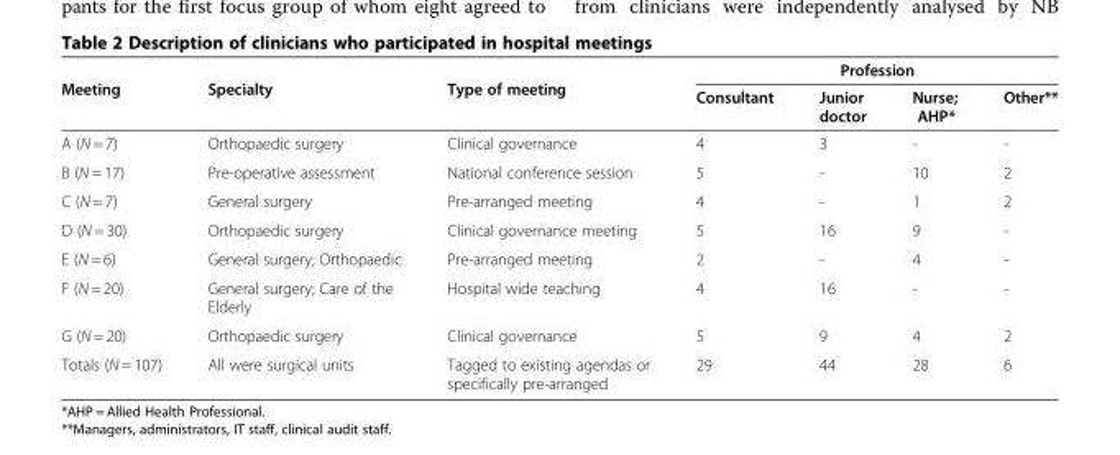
<table><thead><tr><td rowspan="2">Meeting</td><td rowspan="2">Specialty</td><td rowspan="2">Type of meeting</td><td colspan="4">Profession</td></tr><tr><td>Consultant</td><td>Junior doctor</td><td>Nurse; AHP*</td><td>Other**</td></tr></thead><tbody><tr><td>A (N = 7)</td><td>Orthopaedic surgery</td><td>Clinical governance</td><td>4</td><td>3</td><td>-</td><td>-</td></tr><tr><td>B (N = 17)</td><td>Pre-operative assessment</td><td>National conference session</td><td>5</td><td>-</td><td>10</td><td>2</td></tr><tr><td>C (N = 7)</td><td>General surgery</td><td>Pre-arranged meeting</td><td>4</td><td>-</td><td>1</td><td>2</td></tr><tr><td>D (N = 30)</td><td>Orthopaedic surgery</td><td>Clinical governance meeting</td><td>5</td><td>16</td><td>9</td><td>-</td></tr><tr><td>E (N = 6)</td><td>General surgery; Orthopaedic</td><td>Pre-arranged meeting</td><td>2</td><td>-</td><td>4</td><td>-</td></tr><tr><td>F (N = 20)</td><td>General surgery; Care of the Elderly</td><td>Hospital wide teaching</td><td>4</td><td>16</td><td>-</td><td>-</td></tr><tr><td>G (N = 20)</td><td>Orthopaedic surgery</td><td>Clinical governance</td><td>5</td><td>9</td><td>4</td><td>2</td></tr><tr><td>Totals (N = 107)</td><td>All were surgical units</td><td>Tagged to existing agendas or specifically pre-arranged</td><td>29</td><td>44</td><td>28</td><td>6</td></tr></tbody></table>